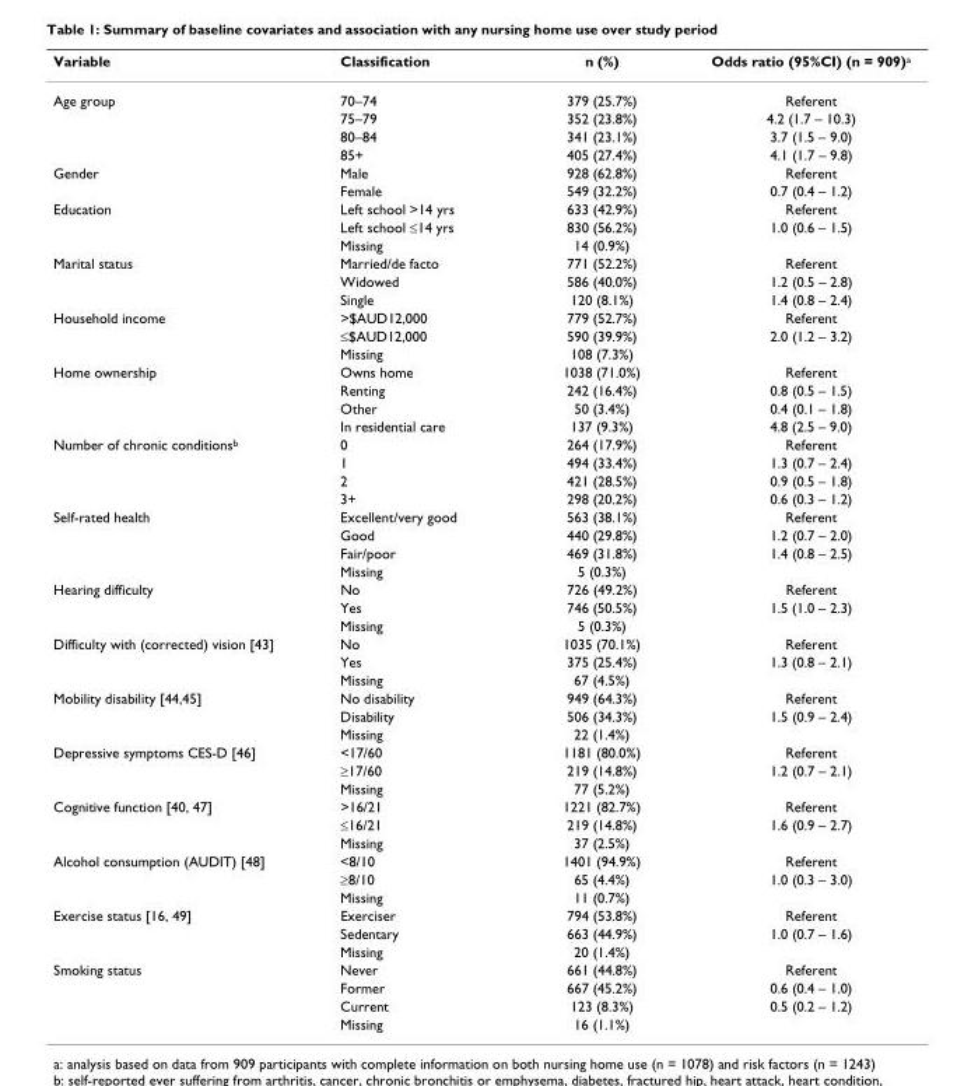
<table><thead><tr><td>Variable</td><td>Classification</td><td>n (%)</td><td>Odds ratio (95%CI) (n = 909)<sup>a</sup></td></tr></thead><tbody><tr><td rowspan="4">Age group</td><td>70–74</td><td>379 (25.7%)</td><td>Referent</td></tr><tr><td>75–79</td><td>352 (23.8%)</td><td>4.2 (1.7 – 10.3)</td></tr><tr><td>80–84</td><td>341 (23.1%)</td><td>3.7 (1.5 – 9.0)</td></tr><tr><td>85+</td><td>405 (27.4%)</td><td>4.1 (1.7 – 9.8)</td></tr><tr><td rowspan="2">Gender</td><td>Male</td><td>928 (62.8%)</td><td>Referent</td></tr><tr><td>Female</td><td>549 (32.2%)</td><td>0.7 (0.4 – 1.2)</td></tr><tr><td rowspan="3">Education</td><td>Left school &gt;14 yrs</td><td>633 (42.9%)</td><td>Referent</td></tr><tr><td>Left school ≤14 yrs</td><td>830 (56.2%)</td><td>1.0 (0.6 – 1.5)</td></tr><tr><td>Missing</td><td>14 (0.9%)</td><td></td></tr><tr><td rowspan="3">Marital status</td><td>Married/de facto</td><td>771 (52.2%)</td><td>Referent</td></tr><tr><td>Widowed</td><td>586 (40.0%)</td><td>1.2 (0.5 – 2.8)</td></tr><tr><td>Single</td><td>120 (8.1%)</td><td>1.4 (0.8 – 2.4)</td></tr><tr><td rowspan="3">Household income</td><td>&gt;$AUD12,000</td><td>779 (52.7%)</td><td>Referent</td></tr><tr><td>≤$AUD12,000</td><td>590 (39.9%)</td><td>2.0 (1.2 – 3.2)</td></tr><tr><td>Missing</td><td>108 (7.3%)</td><td></td></tr><tr><td rowspan="4">Home ownership</td><td>Owns home</td><td>1038 (71.0%)</td><td>Referent</td></tr><tr><td>Renting</td><td>242 (16.4%)</td><td>0.8 (0.5 – 1.5)</td></tr><tr><td>Other</td><td>50 (3.4%)</td><td>0.4 (0.1 – 1.8)</td></tr><tr><td>In residential care</td><td>137 (9.3%)</td><td>4.8 (2.5 – 9.0)</td></tr><tr><td rowspan="4">Number of chronic conditions<sup>b</sup></td><td>0</td><td>264 (17.9%)</td><td>Referent</td></tr><tr><td>1</td><td>494 (33.4%)</td><td>1.3 (0.7 – 2.4)</td></tr><tr><td>2</td><td>421 (28.5%)</td><td>0.9 (0.5 – 1.8)</td></tr><tr><td>3+</td><td>298 (20.2%)</td><td>0.6 (0.3 – 1.2)</td></tr><tr><td rowspan="4">Self-rated health</td><td>Excellent/very good</td><td>563 (38.1%)</td><td>Referent</td></tr><tr><td>Good</td><td>440 (29.8%)</td><td>1.2 (0.7 – 2.0)</td></tr><tr><td>Fair/poor</td><td>469 (31.8%)</td><td>1.4 (0.8 – 2.5)</td></tr><tr><td>Missing</td><td>5 (0.3%)</td><td></td></tr><tr><td rowspan="3">Hearing difficulty</td><td>No</td><td>726 (49.2%)</td><td>Referent</td></tr><tr><td>Yes</td><td>746 (50.5%)</td><td>1.5 (1.0 – 2.3)</td></tr><tr><td>Missing</td><td>5 (0.3%)</td><td></td></tr><tr><td rowspan="3">Difficulty with (corrected) vision [43]</td><td>No</td><td>1035 (70.1%)</td><td>Referent</td></tr><tr><td>Yes</td><td>375 (25.4%)</td><td>1.3 (0.8 – 2.1)</td></tr><tr><td>Missing</td><td>67 (4.5%)</td><td></td></tr><tr><td rowspan="3">Mobility disability [44,45]</td><td>No disability</td><td>949 (64.3%)</td><td>Referent</td></tr><tr><td>Disability</td><td>506 (34.3%)</td><td>1.5 (0.9 – 2.4)</td></tr><tr><td>Missing</td><td>22 (1.4%)</td><td></td></tr><tr><td rowspan="3">Depressive symptoms CES-D [46]</td><td>&lt;17/60</td><td>1181 (80.0%)</td><td>Referent</td></tr><tr><td>≥17/60</td><td>219 (14.8%)</td><td>1.2 (0.7 – 2.1)</td></tr><tr><td>Missing</td><td>77 (5.2%)</td><td></td></tr><tr><td rowspan="3">Cognitive function [40, 47]</td><td>&gt;16/21</td><td>1221 (82.7%)</td><td>Referent</td></tr><tr><td>≤16/21</td><td>219 (14.8%)</td><td>1.6 (0.9 – 2.7)</td></tr><tr><td>Missing</td><td>37 (2.5%)</td><td></td></tr><tr><td rowspan="3">Alcohol consumption (AUDIT) [48]</td><td>&lt;8/10</td><td>1401 (94.9%)</td><td>Referent</td></tr><tr><td>≥8/10</td><td>65 (4.4%)</td><td>1.0 (0.3 – 3.0)</td></tr><tr><td>Missing</td><td>11 (0.7%)</td><td></td></tr><tr><td rowspan="3">Exercise status [16, 49]</td><td>Exerciser</td><td>794 (53.8%)</td><td>Referent</td></tr><tr><td>Sedentary</td><td>663 (44.9%)</td><td>1.0 (0.7 – 1.6)</td></tr><tr><td>Missing</td><td>20 (1.4%)</td><td></td></tr><tr><td rowspan="4">Smoking status</td><td>Never</td><td>661 (44.8%)</td><td>Referent</td></tr><tr><td>Former</td><td>667 (45.2%)</td><td>0.6 (0.4 – 1.0)</td></tr><tr><td>Current</td><td>123 (8.3%)</td><td>0.5 (0.2 – 1.2)</td></tr><tr><td>Missing</td><td>16 (1.1%)</td><td></td></tr></tbody></table>